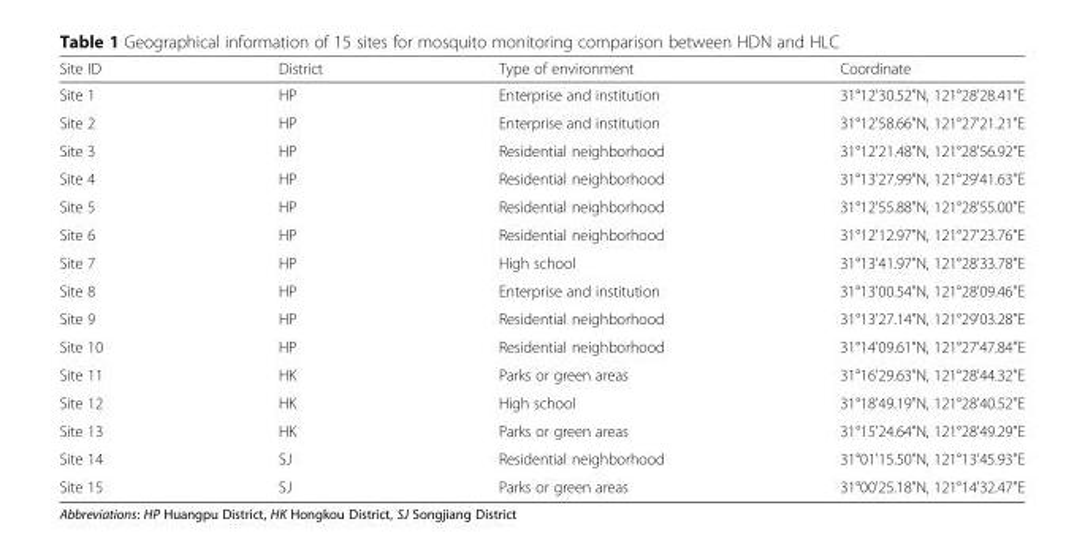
<table><thead><tr><td>Site ID</td><td>District</td><td>Type of environment</td><td>Coordinate</td></tr></thead><tbody><tr><td>Site 1</td><td>HP</td><td>Enterprise and institution</td><td>31°12&#x27;30.52&quot;N, 121°28&#x27;28.41&quot;E</td></tr><tr><td>Site 2</td><td>HP</td><td>Enterprise and institution</td><td>31°12&#x27;58.66&quot;N, 121°27&#x27;21.21&quot;E</td></tr><tr><td>Site 3</td><td>HP</td><td>Residential neighborhood</td><td>31°12&#x27;21.48&quot;N, 121°28&#x27;56.92&quot;E</td></tr><tr><td>Site 4</td><td>HP</td><td>Residential neighborhood</td><td>31°13&#x27;27.99&quot;N, 121°29&#x27;41.63&quot;E</td></tr><tr><td>Site 5</td><td>HP</td><td>Residential neighborhood</td><td>31°12&#x27;55.88&quot;N, 121°28&#x27;55.00&quot;E</td></tr><tr><td>Site 6</td><td>HP</td><td>Residential neighborhood</td><td>31°12&#x27;12.97&quot;N, 121°27&#x27;23.76&quot;E</td></tr><tr><td>Site 7</td><td>HP</td><td>High school</td><td>31°13&#x27;41.97&quot;N, 121°28&#x27;33.78&quot;E</td></tr><tr><td>Site 8</td><td>HP</td><td>Enterprise and institution</td><td>31°13&#x27;00.54&quot;N, 121°28&#x27;09.46&quot;E</td></tr><tr><td>Site 9</td><td>HP</td><td>Residential neighborhood</td><td>31°13&#x27;27.14&quot;N, 121°29&#x27;03.28&quot;E</td></tr><tr><td>Site 10</td><td>HP</td><td>Residential neighborhood</td><td>31°14&#x27;09.61&quot;N, 121°27&#x27;47.84&quot;E</td></tr><tr><td>Site 11</td><td>HK</td><td>Parks or green areas</td><td>31°16&#x27;29.63&quot;N, 121°28&#x27;44.32&quot;E</td></tr><tr><td>Site 12</td><td>HK</td><td>High school</td><td>31°18&#x27;49.19&quot;N, 121°28&#x27;40.52&quot;E</td></tr><tr><td>Site 13</td><td>HK</td><td>Parks or green areas</td><td>31°15&#x27;24.64&quot;N, 121°28&#x27;49.29&quot;E</td></tr><tr><td>Site 14</td><td>SJ</td><td>Residential neighborhood</td><td>31°01&#x27;15.50&quot;N, 121°13&#x27;45.93&quot;E</td></tr><tr><td>Site 15</td><td>SJ</td><td>Parks or green areas</td><td>31°00&#x27;25.18&quot;N, 121°14&#x27;32.47&quot;E</td></tr></tbody></table>